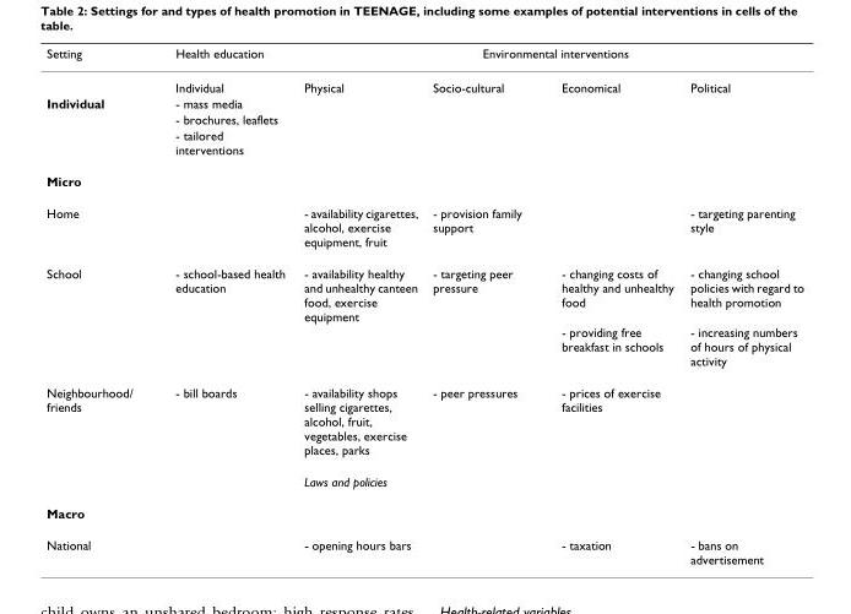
<table><thead><tr><td rowspan="2">Setting</td><td rowspan="2">Health education Individual</td><td colspan="4">Environmental interventions</td></tr><tr><td>Physical</td><td>Socio-cultural</td><td>Economical</td><td>Political</td></tr></thead><tbody><tr><td rowspan="3">Individual</td><td>- mass media</td><td></td><td></td><td></td><td></td></tr><tr><td>- brochures, leaflets</td><td></td><td></td><td></td><td></td></tr><tr><td>- tailored interventions</td><td></td><td></td><td></td><td></td></tr><tr><td colspan="6">Micro</td></tr><tr><td>Home</td><td></td><td>- availability cigarettes, alcohol, exercise equipment, fruit</td><td>- provision family support</td><td></td><td>- targeting parenting style</td></tr><tr><td rowspan="2">School</td><td>- school-based health education</td><td>- availability healthy and unhealthy canteen food, exercise equipment</td><td>- targeting peer pressure</td><td>- changing costs of healthy and unhealthy food</td><td>- changing school policies with regard to health promotion</td></tr><tr><td></td><td></td><td></td><td>- providing free breakfast in schools</td><td>- increasing numbers of hours of physical activity</td></tr><tr><td rowspan="2">Neighbourhood/ friends</td><td>- bill boards</td><td>- availability shops selling cigarettes, alcohol, fruit, vegetables, exercise places, parks</td><td>- peer pressures</td><td>- prices of exercise facilities</td><td></td></tr><tr><td></td><td>Laws and policies</td><td></td><td></td><td></td></tr><tr><td colspan="6">Macro</td></tr><tr><td>National</td><td></td><td>- opening hours bars</td><td></td><td>- taxation</td><td>- bans on advertisement</td></tr></tbody></table>